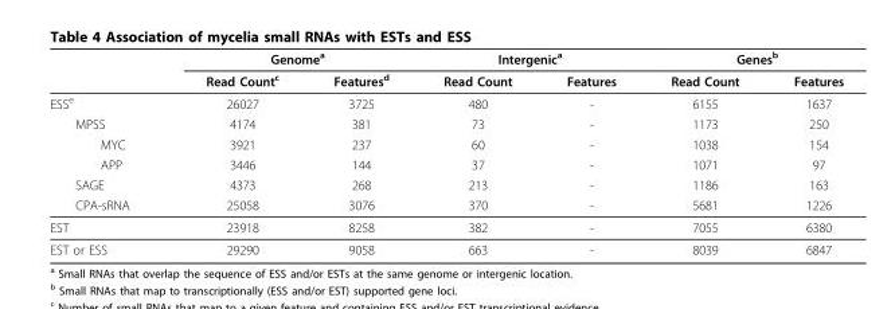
<table><thead><tr><td rowspan="2"></td><td colspan="2">Genome<sup>a</sup></td><td colspan="2">Intergenic<sup>a</sup></td><td colspan="2">Genes<sup>b</sup></td></tr><tr><td>Read Count<sup>c</sup></td><td>Features<sup>d</sup></td><td>Read Count</td><td>Features</td><td>Read Count</td><td>Features</td></tr></thead><tbody><tr><td>ESS<sup>e</sup></td><td>26027</td><td>3725</td><td>480</td><td>-</td><td>6155</td><td>1637</td></tr><tr><td>MPSS</td><td>4174</td><td>381</td><td>73</td><td>-</td><td>1173</td><td>250</td></tr><tr><td>MYC</td><td>3921</td><td>237</td><td>60</td><td>-</td><td>1038</td><td>154</td></tr><tr><td>APP</td><td>3446</td><td>144</td><td>37</td><td>-</td><td>1071</td><td>97</td></tr><tr><td>SAGE</td><td>4373</td><td>268</td><td>213</td><td>-</td><td>1186</td><td>163</td></tr><tr><td>CPA-sRNA</td><td>25058</td><td>3076</td><td>370</td><td>-</td><td>5681</td><td>1226</td></tr><tr><td>EST</td><td>23918</td><td>8258</td><td>382</td><td>-</td><td>7055</td><td>6380</td></tr><tr><td>EST or ESS</td><td>29290</td><td>9058</td><td>663</td><td>-</td><td>8039</td><td>6847</td></tr></tbody></table>